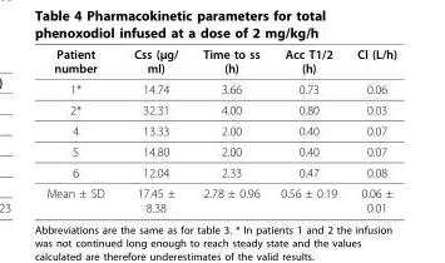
<table><thead><tr><td>Patient number</td><td>Css (μg/ ml)</td><td>Time to ss (h)</td><td>Acc T1/2 (h)</td><td>Cl (L/h)</td></tr></thead><tbody><tr><td>1*</td><td>14.74</td><td>3.66</td><td>0.73</td><td>0.06</td></tr><tr><td>2*</td><td>32.31</td><td>4.00</td><td>0.80</td><td>0.03</td></tr><tr><td>4</td><td>13.33</td><td>2.00</td><td>0.40</td><td>0.07</td></tr><tr><td>5</td><td>14.80</td><td>2.00</td><td>0.40</td><td>0.07</td></tr><tr><td>6</td><td>12.04</td><td>2.33</td><td>0.47</td><td>0.08</td></tr><tr><td>Mean ± SD</td><td>17.45 ± 8.38</td><td>2.78 ± 0.96</td><td>0.56 ± 0.19</td><td>0.06 ± 0.01</td></tr></tbody></table>